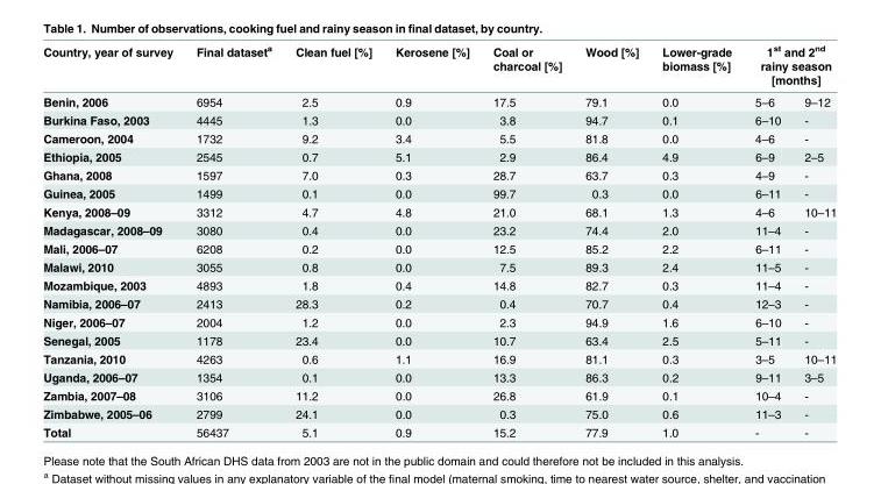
<table><thead><tr><td rowspan="2">Country, year of survey Benin, 2006</td><td rowspan="2">Final dataset<sup>a</sup> 6954</td><td rowspan="2">Clean fuel [%] 2.5</td><td rowspan="2">Kerosene [%] 0.9</td><td rowspan="2">Coal or charcoal [%] 17.5</td><td rowspan="2">Wood [%] 79.1</td><td rowspan="2">Lower-grade biomass [%] 0.0</td><td colspan="2">1<sup>st</sup> and 2<sup>nd</sup> rainy season [months]</td></tr><tr><td>5–6</td><td>9–12</td></tr></thead><tbody><tr><td>Burkina Faso, 2003</td><td>4445</td><td>1.3</td><td>0.0</td><td>3.8</td><td>94.7</td><td>0.1</td><td>6–10</td><td>-</td></tr><tr><td>Cameroon, 2004</td><td>1732</td><td>9.2</td><td>3.4</td><td>5.5</td><td>81.8</td><td>0.0</td><td>4–6</td><td>-</td></tr><tr><td>Ethiopia, 2005</td><td>2545</td><td>0.7</td><td>5.1</td><td>2.9</td><td>86.4</td><td>4.9</td><td>6–9</td><td>2–5</td></tr><tr><td>Ghana, 2008</td><td>1597</td><td>7.0</td><td>0.3</td><td>28.7</td><td>63.7</td><td>0.3</td><td>4–9</td><td>-</td></tr><tr><td>Guinea, 2005</td><td>1499</td><td>0.1</td><td>0.0</td><td>99.7</td><td>0.3</td><td>0.0</td><td>6–11</td><td>-</td></tr><tr><td>Kenya, 2008–09</td><td>3312</td><td>4.7</td><td>4.8</td><td>21.0</td><td>68.1</td><td>1.3</td><td>4–6</td><td>10–11</td></tr><tr><td>Madagascar, 2008–09</td><td>3080</td><td>0.4</td><td>0.0</td><td>23.2</td><td>74.4</td><td>2.0</td><td>11–4</td><td>-</td></tr><tr><td>Mali, 2006–07</td><td>6208</td><td>0.2</td><td>0.0</td><td>12.5</td><td>85.2</td><td>2.2</td><td>6–11</td><td>-</td></tr><tr><td>Malawi, 2010</td><td>3055</td><td>0.8</td><td>0.0</td><td>7.5</td><td>89.3</td><td>2.4</td><td>11–5</td><td>-</td></tr><tr><td>Mozambique, 2003</td><td>4893</td><td>1.8</td><td>0.4</td><td>14.8</td><td>82.7</td><td>0.3</td><td>11–4</td><td>-</td></tr><tr><td>Namibia, 2006–07</td><td>2413</td><td>28.3</td><td>0.2</td><td>0.4</td><td>70.7</td><td>0.4</td><td>12–3</td><td>-</td></tr><tr><td>Niger, 2006–07</td><td>2004</td><td>1.2</td><td>0.0</td><td>2.3</td><td>94.9</td><td>1.6</td><td>6–10</td><td>-</td></tr><tr><td>Senegal, 2005</td><td>1178</td><td>23.4</td><td>0.0</td><td>10.7</td><td>63.4</td><td>2.5</td><td>5–11</td><td>-</td></tr><tr><td>Tanzania, 2010</td><td>4263</td><td>0.6</td><td>1.1</td><td>16.9</td><td>81.1</td><td>0.3</td><td>3–5</td><td>10–11</td></tr><tr><td>Uganda, 2006–07</td><td>1354</td><td>0.1</td><td>0.0</td><td>13.3</td><td>86.3</td><td>0.2</td><td>9–11</td><td>3–5</td></tr><tr><td>Zambia, 2007–08</td><td>3106</td><td>11.2</td><td>0.0</td><td>26.8</td><td>61.9</td><td>0.1</td><td>10–4</td><td>-</td></tr><tr><td>Zimbabwe, 2005–06</td><td>2799</td><td>24.1</td><td>0.0</td><td>0.3</td><td>75.0</td><td>0.6</td><td>11–3</td><td>-</td></tr><tr><td>Total</td><td>56437</td><td>5.1</td><td>0.9</td><td>15.2</td><td>77.9</td><td>1.0</td><td>-</td><td>-</td></tr></tbody></table>